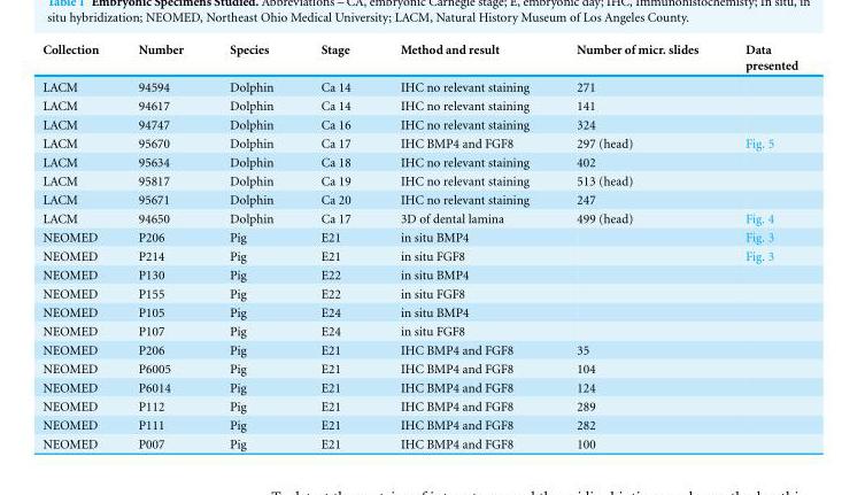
<table><thead><tr><td>Collection</td><td>Number</td><td>Species</td><td>Stage</td><td>Method and result</td><td>Number of micr. slides</td><td>Data presented</td></tr></thead><tbody><tr><td>LACM</td><td>94594</td><td>Dolphin</td><td>Ca 14</td><td>IHC no relevant staining</td><td>271</td><td></td></tr><tr><td>LACM</td><td>94617</td><td>Dolphin</td><td>Ca 14</td><td>IHC no relevant staining</td><td>141</td><td></td></tr><tr><td>LACM</td><td>94747</td><td>Dolphin</td><td>Ca 16</td><td>IHC no relevant staining</td><td>324</td><td></td></tr><tr><td>LACM</td><td>95670</td><td>Dolphin</td><td>Ca 17</td><td>IHC BMP4 and FGF8</td><td>297 (head)</td><td>Fig. 5</td></tr><tr><td>LACM</td><td>95634</td><td>Dolphin</td><td>Ca 18</td><td>IHC no relevant staining</td><td>402</td><td></td></tr><tr><td>LACM</td><td>95817</td><td>Dolphin</td><td>Ca 19</td><td>IHC no relevant staining</td><td>513 (head)</td><td></td></tr><tr><td>LACM</td><td>95671</td><td>Dolphin</td><td>Ca 20</td><td>IHC no relevant staining</td><td>247</td><td></td></tr><tr><td>LACM</td><td>94650</td><td>Dolphin</td><td>Ca 17</td><td>3D of dental lamina</td><td>499 (head)</td><td>Fig. 4</td></tr><tr><td>NEOMED</td><td>P206</td><td>Pig</td><td>E21</td><td>in situ BMP4</td><td></td><td>Fig. 3</td></tr><tr><td>NEOMED</td><td>P214</td><td>Pig</td><td>E21</td><td>in situ FGF8</td><td></td><td>Fig. 3</td></tr><tr><td>NEOMED</td><td>P130</td><td>Pig</td><td>E22</td><td>in situ BMP4</td><td></td><td></td></tr><tr><td>NEOMED</td><td>P155</td><td>Pig</td><td>E22</td><td>in situ FGF8</td><td></td><td></td></tr><tr><td>NEOMED</td><td>P105</td><td>Pig</td><td>E24</td><td>in situ BMP4</td><td></td><td></td></tr><tr><td>NEOMED</td><td>P107</td><td>Pig</td><td>E24</td><td>in situ FGF8</td><td></td><td></td></tr><tr><td>NEOMED</td><td>P206</td><td>Pig</td><td>E21</td><td>IHC BMP4 and FGF8</td><td>35</td><td></td></tr><tr><td>NEOMED</td><td>P6005</td><td>Pig</td><td>E21</td><td>IHC BMP4 and FGF8</td><td>104</td><td></td></tr><tr><td>NEOMED</td><td>P6014</td><td>Pig</td><td>E21</td><td>IHC BMP4 and FGF8</td><td>124</td><td></td></tr><tr><td>NEOMED</td><td>P112</td><td>Pig</td><td>E21</td><td>IHC BMP4 and FGF8</td><td>289</td><td></td></tr><tr><td>NEOMED</td><td>P111</td><td>Pig</td><td>E21</td><td>IHC BMP4 and FGF8</td><td>282</td><td></td></tr><tr><td>NEOMED</td><td>P007</td><td>Pig</td><td>E21</td><td>IHC BMP4 and FGF8</td><td>100</td><td></td></tr></tbody></table>